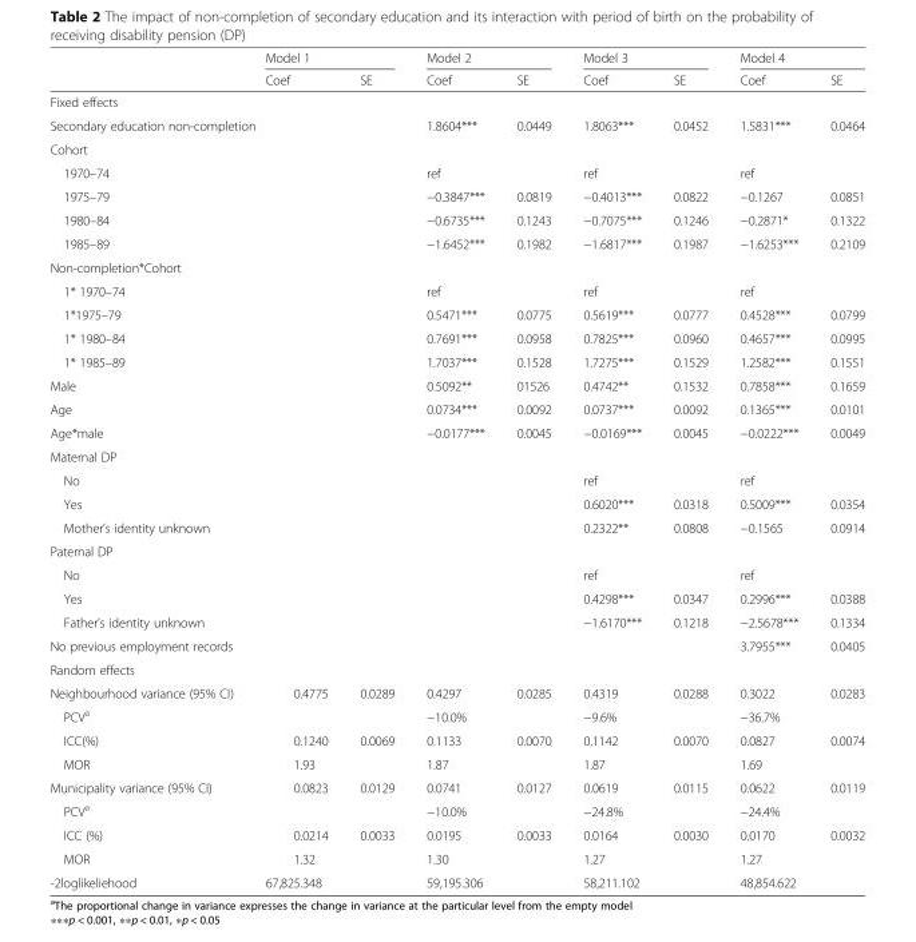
<table><thead><tr><td rowspan="2"></td><td colspan="2">Model 1</td><td colspan="2">Model 2</td><td colspan="2">Model 3</td><td colspan="2">Model 4</td></tr><tr><td>Coef</td><td>SE</td><td>Coef</td><td>SE</td><td>Coef</td><td>SE</td><td>Coef</td><td>SE</td></tr></thead><tbody><tr><td colspan="9">Fixed effects</td></tr><tr><td colspan="2">Secondary education non-completion</td><td></td><td>1.8604***</td><td>0.0449</td><td>1.8063***</td><td>0.0452</td><td>1.5831***</td><td>0.0464</td></tr><tr><td colspan="9">Cohort</td></tr><tr><td>1970–74</td><td></td><td></td><td>ref</td><td></td><td>ref</td><td></td><td>ref</td><td></td></tr><tr><td>1975–79</td><td></td><td></td><td>−0.3847***</td><td>0.0819</td><td>−0.4013***</td><td>0.0822</td><td>−0.1267</td><td>0.0851</td></tr><tr><td>1980–84</td><td></td><td></td><td>−0.6735***</td><td>0.1243</td><td>−0.7075***</td><td>0.1246</td><td>−0.2871*</td><td>0.1322</td></tr><tr><td>1985–89</td><td></td><td></td><td>−1.6452***</td><td>0.1982</td><td>−1.6817***</td><td>0.1987</td><td>−1.6253***</td><td>0.2109</td></tr><tr><td colspan="9">Non-completion*Cohort</td></tr><tr><td>1* 1970–74</td><td></td><td></td><td>ref</td><td></td><td>ref</td><td></td><td>ref</td><td></td></tr><tr><td>1*1975–79</td><td></td><td></td><td>0.5471***</td><td>0.0775</td><td>0.5619***</td><td>0.0777</td><td>0.4528***</td><td>0.0799</td></tr><tr><td>1* 1980–84</td><td></td><td></td><td>0.7691***</td><td>0.0958</td><td>0.7825***</td><td>0.0960</td><td>0.4657***</td><td>0.0995</td></tr><tr><td>1* 1985–89</td><td></td><td></td><td>1.7037***</td><td>0.1528</td><td>1.7275***</td><td>0.1529</td><td>1.2582***</td><td>0.1551</td></tr><tr><td>Male</td><td></td><td></td><td>0.5092**</td><td>01526</td><td>0.4742**</td><td>0.1532</td><td>0.7858***</td><td>0.1659</td></tr><tr><td>Age</td><td></td><td></td><td>0.0734***</td><td>0.0092</td><td>0.0737***</td><td>0.0092</td><td>0.1365***</td><td>0.0101</td></tr><tr><td>Age*male</td><td></td><td></td><td>−0.0177***</td><td>0.0045</td><td>−0.0169***</td><td>0.0045</td><td>−0.0222***</td><td>0.0049</td></tr><tr><td colspan="9">Maternal DP</td></tr><tr><td>No</td><td></td><td></td><td></td><td></td><td>ref</td><td></td><td>ref</td><td></td></tr><tr><td>Yes</td><td></td><td></td><td></td><td></td><td>0.6020***</td><td>0.0318</td><td>0.5009***</td><td>0.0354</td></tr><tr><td>Mother’s identity unknown</td><td></td><td></td><td></td><td></td><td>0.2322**</td><td>0.0808</td><td>−0.1565</td><td>0.0914</td></tr><tr><td colspan="9">Paternal DP</td></tr><tr><td>No</td><td></td><td></td><td></td><td></td><td>ref</td><td></td><td>ref</td><td></td></tr><tr><td>Yes</td><td></td><td></td><td></td><td></td><td>0.4298***</td><td>0.0347</td><td>0.2996***</td><td>0.0388</td></tr><tr><td>Father’s identity unknown</td><td></td><td></td><td></td><td></td><td>−1.6170***</td><td>0.1218</td><td>−2.5678***</td><td>0.1334</td></tr><tr><td>No previous employment records</td><td></td><td></td><td></td><td></td><td></td><td></td><td>3.7955***</td><td>0.0405</td></tr><tr><td colspan="9">Random effects</td></tr><tr><td>Neighbourhood variance (95% CI)</td><td>0.4775</td><td>0.0289</td><td>0.4297</td><td>0.0285</td><td>0.4319</td><td>0.0288</td><td>0.3022</td><td>0.0283</td></tr><tr><td>PCV<sup>a</sup></td><td colspan="2"></td><td colspan="2">−10.0%</td><td colspan="2">−9.6%</td><td colspan="2">−36.7%</td></tr><tr><td>ICC(%)</td><td>0.1240</td><td>0.0069</td><td>0.1133</td><td>0.0070</td><td>0.1142</td><td>0.0070</td><td>0.0827</td><td>0.0074</td></tr><tr><td>MOR</td><td>1.93</td><td></td><td>1.87</td><td></td><td>1.87</td><td></td><td>1.69</td><td></td></tr><tr><td>Municipality variance (95% CI)</td><td>0.0823</td><td>0.0129</td><td>0.0741</td><td>0.0127</td><td>0.0619</td><td>0.0115</td><td>0.0622</td><td>0.0119</td></tr><tr><td>PCV<sup>a</sup></td><td colspan="2"></td><td colspan="2">−10.0%</td><td colspan="2">−24.8%</td><td colspan="2">−24.4%</td></tr><tr><td>ICC (%)</td><td>0.0214</td><td>0.0033</td><td>0.0195</td><td>0.0033</td><td>0.0164</td><td>0.0030</td><td>0.0170</td><td>0.0032</td></tr><tr><td>MOR</td><td>1.32</td><td></td><td>1.30</td><td></td><td>1.27</td><td></td><td>1.27</td><td></td></tr><tr><td>-2loglikeliehood</td><td>67,825.348</td><td></td><td>59,195.306</td><td></td><td>58,211.102</td><td></td><td>48,854.622</td><td></td></tr></tbody></table>